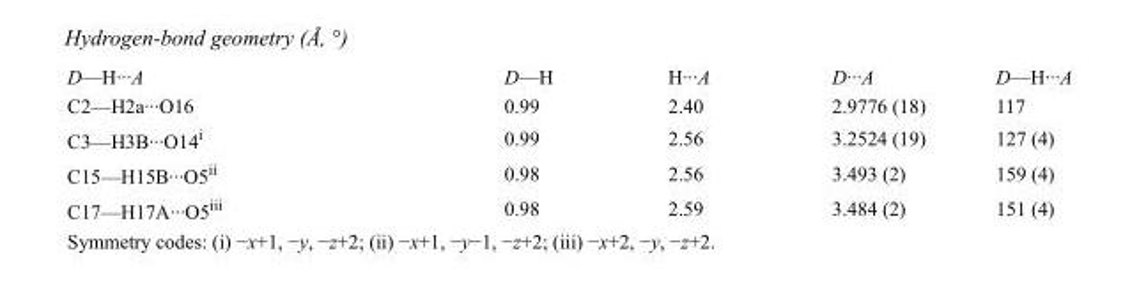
<table><tbody><tr><td>D—H···A</td><td>D—H</td><td>H···A</td><td>D···A</td><td>D—H···A</td></tr><tr><td>C2—H2a···O16</td><td>0.99</td><td>2.40</td><td>2.9776 (18)</td><td>117</td></tr><tr><td>C3—H3B···O14<sup>i</sup></td><td>0.99</td><td>2.56</td><td>3.2524 (19)</td><td>127 (4)</td></tr><tr><td>C15—H15B···O5<sup>ii</sup></td><td>0.98</td><td>2.56</td><td>3.493 (2)</td><td>159 (4)</td></tr><tr><td>C17—H17A···O5<sup>iii</sup></td><td>0.98</td><td>2.59</td><td>3.484 (2)</td><td>151 (4)</td></tr></tbody></table>